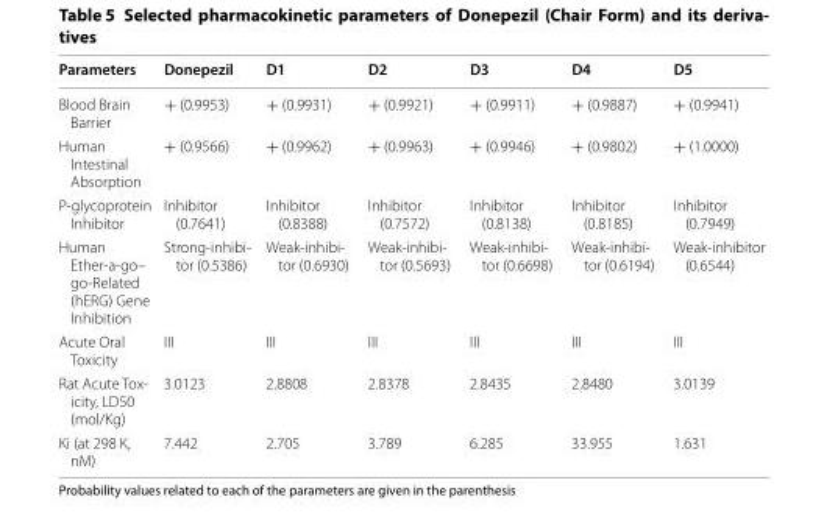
<table><thead><tr><td>Parameters</td><td>Donepezil</td><td>D1</td><td>D2</td><td>D3</td><td>D4</td><td>D5</td></tr></thead><tbody><tr><td>Blood Brain Barrier</td><td>+ (0.9953)</td><td>+ (0.9931)</td><td>+ (0.9921)</td><td>+ (0.9911)</td><td>+ (0.9887)</td><td>+ (0.9941)</td></tr><tr><td>Human Intestinal Absorption</td><td>+ (0.9566)</td><td>+ (0.9962)</td><td>+ (0.9963)</td><td>+ (0.9946)</td><td>+ (0.9802)</td><td>+ (1.0000)</td></tr><tr><td>P-glycoprotein Inhibitor</td><td>Inhibitor (0.7641)</td><td>Inhibitor (0.8388)</td><td>Inhibitor (0.7572)</td><td>Inhibitor (0.8138)</td><td>Inhibitor (0.8185)</td><td>Inhibitor (0.7949)</td></tr><tr><td>Human Ether-a-go– go-Related (hERG) Gene Inhibition</td><td>Strong-inhibi- tor (0.5386)</td><td>Weak-inhibi- tor (0.6930)</td><td>Weak-inhibi- tor (0.5693)</td><td>Weak-inhibi- tor (0.6698)</td><td>Weak-inhibi- tor (0.6194)</td><td>Weak-inhibitor (0.6544)</td></tr><tr><td>Acute Oral Toxicity</td><td>III</td><td>III</td><td>III</td><td>III</td><td>III</td><td>III</td></tr><tr><td>Rat Acute Tox- icity, LD50 (mol/Kg)</td><td>3.0123</td><td>2.8808</td><td>2.8378</td><td>2.8435</td><td>2.8480</td><td>3.0139</td></tr><tr><td>Ki (at 298 K, nM)</td><td>7.442</td><td>2.705</td><td>3.789</td><td>6.285</td><td>33.955</td><td>1.631</td></tr></tbody></table>